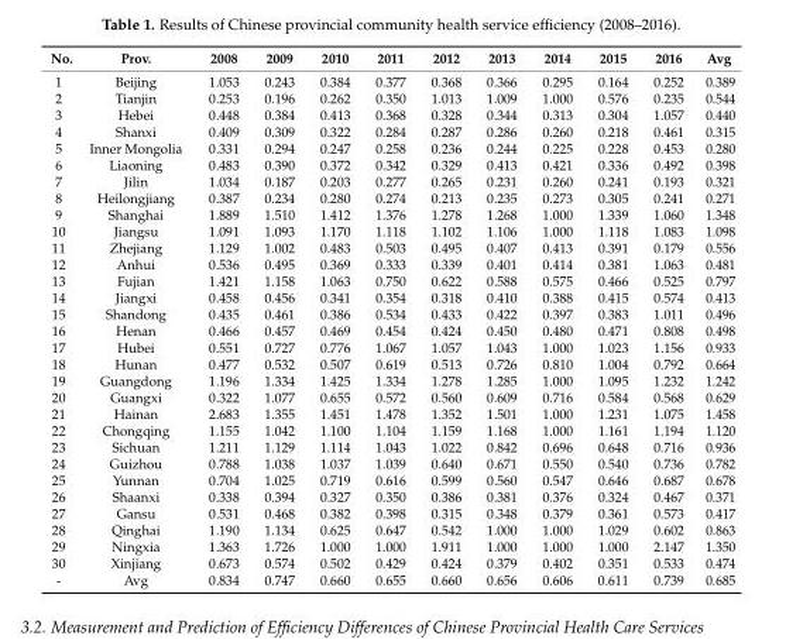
<table><thead><tr><td>No.</td><td>Prov.</td><td>2008</td><td>2009</td><td>2010</td><td>2011</td><td>2012</td><td>2013</td><td>2014</td><td>2015</td><td>2016</td><td>Avg</td></tr></thead><tbody><tr><td>1</td><td>Beijing</td><td>1.053</td><td>0.243</td><td>0.384</td><td>0.377</td><td>0.368</td><td>0.366</td><td>0.295</td><td>0.164</td><td>0.252</td><td>0.389</td></tr><tr><td>2</td><td>Tianjin</td><td>0.253</td><td>0.196</td><td>0.262</td><td>0.350</td><td>1.013</td><td>1.009</td><td>1.000</td><td>0.576</td><td>0.235</td><td>0.544</td></tr><tr><td>3</td><td>Hebei</td><td>0.448</td><td>0.384</td><td>0.413</td><td>0.368</td><td>0.328</td><td>0.344</td><td>0.313</td><td>0.304</td><td>1.057</td><td>0.440</td></tr><tr><td>4</td><td>Shanxi</td><td>0.409</td><td>0.309</td><td>0.322</td><td>0.284</td><td>0.287</td><td>0.286</td><td>0.260</td><td>0.218</td><td>0.461</td><td>0.315</td></tr><tr><td>5</td><td>Inner Mongolia</td><td>0.331</td><td>0.294</td><td>0.247</td><td>0.258</td><td>0.236</td><td>0.244</td><td>0.225</td><td>0.228</td><td>0.453</td><td>0.280</td></tr><tr><td>6</td><td>Liaoning</td><td>0.483</td><td>0.390</td><td>0.372</td><td>0.342</td><td>0.329</td><td>0.413</td><td>0.421</td><td>0.336</td><td>0.492</td><td>0.398</td></tr><tr><td>7</td><td>Jilin</td><td>1.034</td><td>0.187</td><td>0.203</td><td>0.277</td><td>0.265</td><td>0.231</td><td>0.260</td><td>0.241</td><td>0.193</td><td>0.321</td></tr><tr><td>8</td><td>Heilongjiang</td><td>0.387</td><td>0.234</td><td>0.280</td><td>0.274</td><td>0.213</td><td>0.235</td><td>0.273</td><td>0.305</td><td>0.241</td><td>0.271</td></tr><tr><td>9</td><td>Shanghai</td><td>1.889</td><td>1.510</td><td>1.412</td><td>1.376</td><td>1.278</td><td>1.268</td><td>1.000</td><td>1.339</td><td>1.060</td><td>1.348</td></tr><tr><td>10</td><td>Jiangsu</td><td>1.091</td><td>1.093</td><td>1.170</td><td>1.118</td><td>1.102</td><td>1.106</td><td>1.000</td><td>1.118</td><td>1.083</td><td>1.098</td></tr><tr><td>11</td><td>Zhejiang</td><td>1.129</td><td>1.002</td><td>0.483</td><td>0.503</td><td>0.495</td><td>0.407</td><td>0.413</td><td>0.391</td><td>0.179</td><td>0.556</td></tr><tr><td>12</td><td>Anhui</td><td>0.536</td><td>0.495</td><td>0.369</td><td>0.333</td><td>0.339</td><td>0.401</td><td>0.414</td><td>0.381</td><td>1.063</td><td>0.481</td></tr><tr><td>13</td><td>Fujian</td><td>1.421</td><td>1.158</td><td>1.063</td><td>0.750</td><td>0.622</td><td>0.588</td><td>0.575</td><td>0.466</td><td>0.525</td><td>0.797</td></tr><tr><td>14</td><td>Jiangxi</td><td>0.458</td><td>0.456</td><td>0.341</td><td>0.354</td><td>0.318</td><td>0.410</td><td>0.388</td><td>0.415</td><td>0.574</td><td>0.413</td></tr><tr><td>15</td><td>Shandong</td><td>0.435</td><td>0.461</td><td>0.386</td><td>0.534</td><td>0.433</td><td>0.422</td><td>0.397</td><td>0.383</td><td>1.011</td><td>0.496</td></tr><tr><td>16</td><td>Henan</td><td>0.466</td><td>0.457</td><td>0.469</td><td>0.454</td><td>0.424</td><td>0.450</td><td>0.480</td><td>0.471</td><td>0.808</td><td>0.498</td></tr><tr><td>17</td><td>Hubei</td><td>0.551</td><td>0.727</td><td>0.776</td><td>1.067</td><td>1.057</td><td>1.043</td><td>1.000</td><td>1.023</td><td>1.156</td><td>0.933</td></tr><tr><td>18</td><td>Hunan</td><td>0.477</td><td>0.532</td><td>0.507</td><td>0.619</td><td>0.513</td><td>0.726</td><td>0.810</td><td>1.004</td><td>0.792</td><td>0.664</td></tr><tr><td>19</td><td>Guangdong</td><td>1.196</td><td>1.334</td><td>1.425</td><td>1.334</td><td>1.278</td><td>1.285</td><td>1.000</td><td>1.095</td><td>1.232</td><td>1.242</td></tr><tr><td>20</td><td>Guangxi</td><td>0.322</td><td>1.077</td><td>0.655</td><td>0.572</td><td>0.560</td><td>0.609</td><td>0.716</td><td>0.584</td><td>0.568</td><td>0.629</td></tr><tr><td>21</td><td>Hainan</td><td>2.683</td><td>1.355</td><td>1.451</td><td>1.478</td><td>1.352</td><td>1.501</td><td>1.000</td><td>1.231</td><td>1.075</td><td>1.458</td></tr><tr><td>22</td><td>Chongqing</td><td>1.155</td><td>1.042</td><td>1.100</td><td>1.104</td><td>1.159</td><td>1.168</td><td>1.000</td><td>1.161</td><td>1.194</td><td>1.120</td></tr><tr><td>23</td><td>Sichuan</td><td>1.211</td><td>1.129</td><td>1.114</td><td>1.043</td><td>1.022</td><td>0.842</td><td>0.696</td><td>0.648</td><td>0.716</td><td>0.936</td></tr><tr><td>24</td><td>Guizhou</td><td>0.788</td><td>1.038</td><td>1.037</td><td>1.039</td><td>0.640</td><td>0.671</td><td>0.550</td><td>0.540</td><td>0.736</td><td>0.782</td></tr><tr><td>25</td><td>Yunnan</td><td>0.704</td><td>1.025</td><td>0.719</td><td>0.616</td><td>0.599</td><td>0.560</td><td>0.547</td><td>0.646</td><td>0.687</td><td>0.678</td></tr><tr><td>26</td><td>Shaanxi</td><td>0.338</td><td>0.394</td><td>0.327</td><td>0.350</td><td>0.386</td><td>0.381</td><td>0.376</td><td>0.324</td><td>0.467</td><td>0.371</td></tr><tr><td>27</td><td>Gansu</td><td>0.531</td><td>0.468</td><td>0.382</td><td>0.398</td><td>0.315</td><td>0.348</td><td>0.379</td><td>0.361</td><td>0.573</td><td>0.417</td></tr><tr><td>28</td><td>Qinghai</td><td>1.190</td><td>1.134</td><td>0.625</td><td>0.647</td><td>0.542</td><td>1.000</td><td>1.000</td><td>1.029</td><td>0.602</td><td>0.863</td></tr><tr><td>29</td><td>Ningxia</td><td>1.363</td><td>1.726</td><td>1.000</td><td>1.000</td><td>1.911</td><td>1.000</td><td>1.000</td><td>1.000</td><td>2.147</td><td>1.350</td></tr><tr><td>30</td><td>Xinjiang</td><td>0.673</td><td>0.574</td><td>0.502</td><td>0.429</td><td>0.424</td><td>0.379</td><td>0.402</td><td>0.351</td><td>0.533</td><td>0.474</td></tr><tr><td>-</td><td>Avg</td><td>0.834</td><td>0.747</td><td>0.660</td><td>0.655</td><td>0.660</td><td>0.656</td><td>0.606</td><td>0.611</td><td>0.739</td><td>0.685</td></tr></tbody></table>